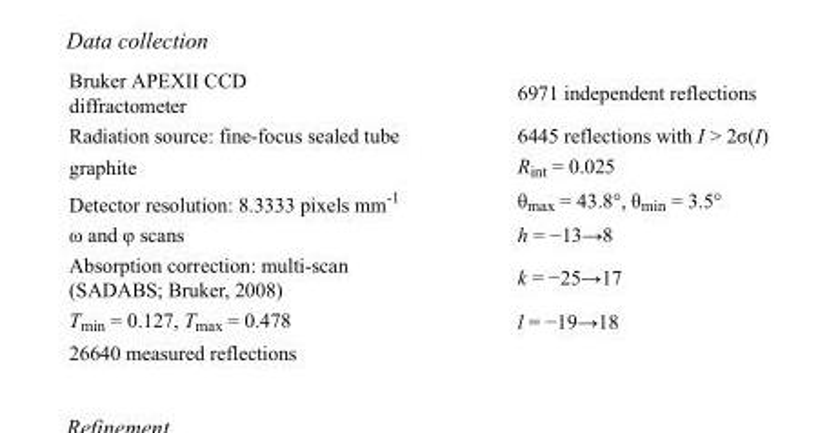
<table><tbody><tr><td>Bruker APEXII CCD diffractometer</td><td>6971 independent reflections</td></tr><tr><td>Radiation source: fine-focus sealed tube</td><td>6445 reflections with I &gt; 2σ(I)</td></tr><tr><td>graphite</td><td>R<sub>int</sub> = 0.025</td></tr><tr><td>Detector resolution: 8.3333 pixels mm<sup>-1</sup></td><td>θ<sub>max</sub> = 43.8°, θ<sub>min</sub> = 3.5°</td></tr><tr><td>ω and φ scans</td><td>h = −13→8</td></tr><tr><td>Absorption correction: multi-scan (SADABS; Bruker, 2008)</td><td>k = −25→17</td></tr><tr><td>T<sub>min</sub> = 0.127, T<sub>max</sub> = 0.478</td><td>l = −19→18</td></tr><tr><td>26640 measured reflections</td><td></td></tr></tbody></table>